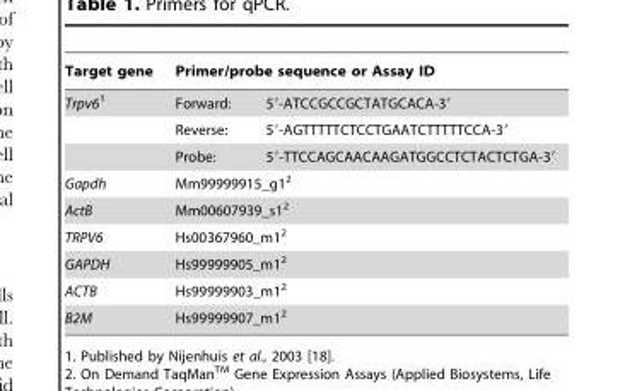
<table><thead><tr><td rowspan="2">Target gene Trpv61</td><td colspan="2">Primer/probe sequence or Assay ID</td></tr><tr><td>Forward:</td><td>5′-ATCCGCCGCTATGCACA-3′</td></tr></thead><tbody><tr><td></td><td>Reverse:</td><td>5′-AGTTTTTCTCCTGAATCTTTTTCCA-3′</td></tr><tr><td></td><td>Probe:</td><td>5′-TTCCAGCAACAAGATGGCCTCTACTCTGA-3′</td></tr><tr><td>Gapdh</td><td colspan="2">Mm99999915_g1<sup>2</sup></td></tr><tr><td>ActB</td><td colspan="2">Mm00607939_s1<sup>2</sup></td></tr><tr><td>TRPV6</td><td colspan="2">Hs00367960_m1<sup>2</sup></td></tr><tr><td>GAPDH</td><td colspan="2">Hs99999905_m1<sup>2</sup></td></tr><tr><td>ACTB</td><td colspan="2">Hs99999903_m1<sup>2</sup></td></tr><tr><td>B2M</td><td colspan="2">Hs99999907_m1<sup>2</sup></td></tr></tbody></table>